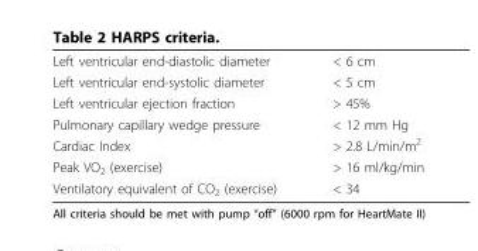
<table><tbody><tr><td>Left ventricular end-diastolic diameter</td><td>&lt; 6 cm</td></tr><tr><td>Left ventricular end-systolic diameter</td><td>&lt; 5 cm</td></tr><tr><td>Left ventricular ejection fraction</td><td>&gt; 45%</td></tr><tr><td>Pulmonary capillary wedge pressure</td><td>&lt; 12 mm Hg</td></tr><tr><td>Cardiac Index</td><td>&gt; 2.8 L/min/m<sup>2</sup></td></tr><tr><td>Peak VO<sub>2</sub> (exercise)</td><td>&gt; 16 ml/kg/min</td></tr><tr><td>Ventilatory equivalent of CO<sub>2</sub> (exercise)</td><td>&lt; 34</td></tr></tbody></table>